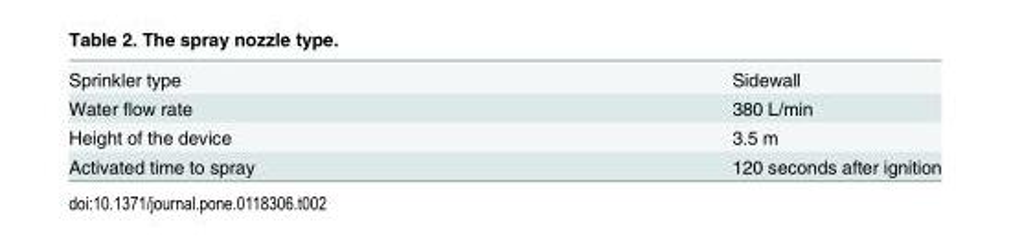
<table><tbody><tr><td>Sprinkler type</td><td>Sidewall</td></tr><tr><td>Water flow rate</td><td>380 L/min</td></tr><tr><td>Height of the device</td><td>3.5 m</td></tr><tr><td>Activated time to spray</td><td>120 seconds after ignition</td></tr></tbody></table>